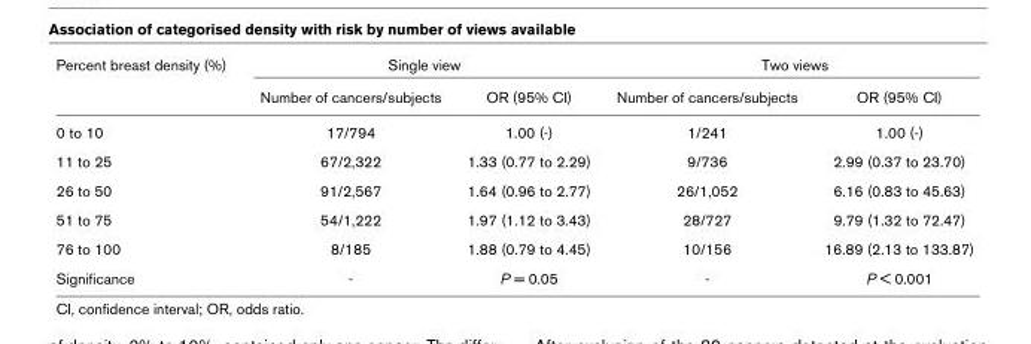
<table><thead><tr><td rowspan="2">Percent breast density (%)</td><td colspan="2">Single view</td><td colspan="2">Two views</td></tr><tr><td>Number of cancers/subjects</td><td>OR (95% CI)</td><td>Number of cancers/subjects</td><td>OR (95% CI)</td></tr></thead><tbody><tr><td>0 to 10</td><td>17/794</td><td>1.00 (-)</td><td>1/241</td><td>1.00 (-)</td></tr><tr><td>11 to 25</td><td>67/2,322</td><td>1.33 (0.77 to 2.29)</td><td>9/736</td><td>2.99 (0.37 to 23.70)</td></tr><tr><td>26 to 50</td><td>91/2,567</td><td>1.64 (0.96 to 2.77)</td><td>26/1,052</td><td>6.16 (0.83 to 45.63)</td></tr><tr><td>51 to 75</td><td>54/1,222</td><td>1.97 (1.12 to 3.43)</td><td>28/727</td><td>9.79 (1.32 to 72.47)</td></tr><tr><td>76 to 100</td><td>8/185</td><td>1.88 (0.79 to 4.45)</td><td>10/156</td><td>16.89 (2.13 to 133.87)</td></tr><tr><td>Significance</td><td>-</td><td>P = 0.05</td><td>-</td><td>P &lt; 0.001</td></tr></tbody></table>